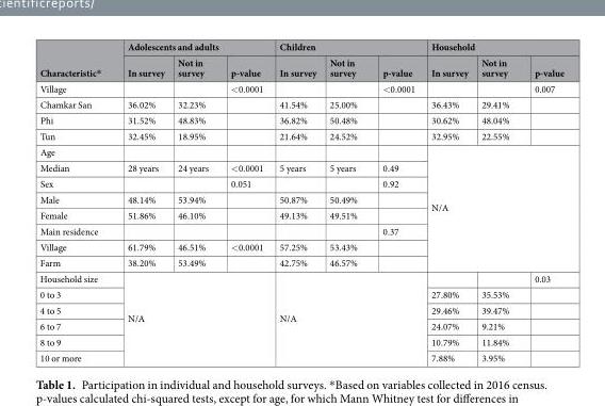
<table><thead><tr><td rowspan="2">Characteristic*</td><td colspan="3">Adolescents and adults</td><td colspan="3">Children</td><td colspan="3">Household</td></tr><tr><td>In survey</td><td>Not in survey</td><td>p-value</td><td>In survey</td><td>Not in survey</td><td>p-value</td><td>In survey</td><td>Not in survey</td><td>p-value</td></tr></thead><tbody><tr><td>Village</td><td></td><td></td><td>&lt;0.0001</td><td></td><td></td><td>&lt;0.0001</td><td></td><td></td><td>0.007</td></tr><tr><td>Chamkar San</td><td>36.02%</td><td>32.23%</td><td></td><td>41.54%</td><td>25.00%</td><td></td><td>36.43%</td><td>29.41%</td><td></td></tr><tr><td>Phi</td><td>31.52%</td><td>48.83%</td><td></td><td>36.82%</td><td>50.48%</td><td></td><td>30.62%</td><td>48.04%</td><td></td></tr><tr><td>Tun</td><td>32.45%</td><td>18.95%</td><td></td><td>21.64%</td><td>24.52%</td><td></td><td>32.95%</td><td>22.55%</td><td></td></tr><tr><td colspan="7">Age</td><td rowspan="8" colspan="3">N/A</td></tr><tr><td>Median</td><td>28 years</td><td>24 years</td><td>&lt;0.0001</td><td>5 years</td><td>5 years</td><td>0.49</td></tr><tr><td>Sex</td><td></td><td></td><td>0.051</td><td></td><td></td><td>0.92</td></tr><tr><td>Male</td><td>48.14%</td><td>53.94%</td><td></td><td>50.87%</td><td>50.49%</td><td></td></tr><tr><td>Female</td><td>51.86%</td><td>46.10%</td><td></td><td>49.13%</td><td>49.51%</td><td></td></tr><tr><td>Main residence</td><td></td><td></td><td></td><td></td><td></td><td>0.37</td></tr><tr><td>Village</td><td>61.79%</td><td>46.51%</td><td>&lt;0.0001</td><td>57.25%</td><td>53.43%</td><td></td></tr><tr><td>Farm</td><td>38.20%</td><td>53.49%</td><td></td><td>42.75%</td><td>46.57%</td><td></td></tr><tr><td>Household size</td><td rowspan="6" colspan="3">N/A</td><td rowspan="6" colspan="3">N/A</td><td></td><td></td><td>0.03</td></tr><tr><td>0 to 3</td><td>27.80%</td><td>35.53%</td><td></td></tr><tr><td>4 to 5</td><td>29.46%</td><td>39.47%</td><td></td></tr><tr><td>6 to 7</td><td>24.07%</td><td>9.21%</td><td></td></tr><tr><td>8 to 9</td><td>10.79%</td><td>11.84%</td><td></td></tr><tr><td>10 or more</td><td>7.88%</td><td>3.95%</td><td></td></tr></tbody></table>